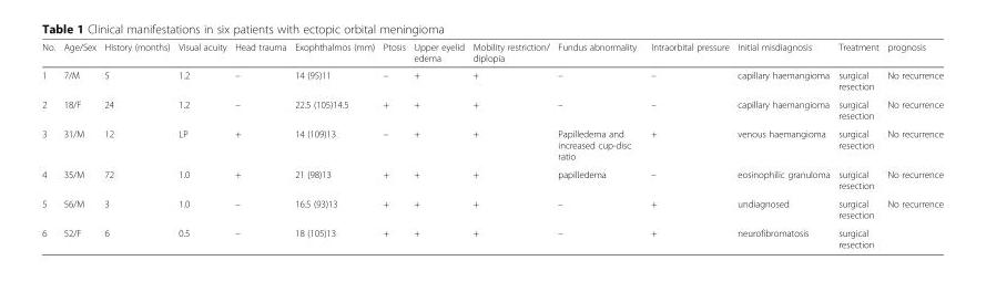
<table><thead><tr><td>No.</td><td>Age/Sex</td><td>History (months)</td><td>Visual acuity</td><td>Head trauma</td><td>Exophthalmos (mm)</td><td>Ptosis</td><td>Upper eyelid edema</td><td>Mobility restriction/ diplopia</td><td>Fundus abnormality</td><td>Intraorbital pressure</td><td>Initial misdiagnosis</td><td>Treatment</td><td>prognosis</td></tr></thead><tbody><tr><td>1</td><td>7/M</td><td>5</td><td>1.2</td><td>–</td><td>14 (95)11</td><td>–</td><td>+</td><td>+</td><td>–</td><td>–</td><td>capillary haemangioma</td><td>surgical resection</td><td>No recurrence</td></tr><tr><td>2</td><td>18/F</td><td>24</td><td>1.2</td><td>–</td><td>22.5 (105)14.5</td><td>+</td><td>+</td><td>+</td><td>–</td><td>–</td><td>capillary haemangioma</td><td>surgical resection</td><td>No recurrence</td></tr><tr><td>3</td><td>31/M</td><td>12</td><td>LP</td><td>+</td><td>14 (109)13</td><td>–</td><td>+</td><td>+</td><td>Papilledema and increased cup-disc ratio</td><td>+</td><td>venous haemangioma</td><td>surgical resection</td><td>No recurrence</td></tr><tr><td>4</td><td>35/M</td><td>72</td><td>1.0</td><td>+</td><td>21 (98)13</td><td>+</td><td>+</td><td>+</td><td>papilledema</td><td>–</td><td>eosinophilic granuloma</td><td>surgical resection</td><td>No recurrence</td></tr><tr><td>5</td><td>56/M</td><td>3</td><td>1.0</td><td>–</td><td>16.5 (93)13</td><td>+</td><td>+</td><td>+</td><td>–</td><td>+</td><td>undiagnosed</td><td>surgical resection</td><td>No recurrence</td></tr><tr><td>6</td><td>52/F</td><td>6</td><td>0.5</td><td>–</td><td>18 (105)13</td><td>+</td><td>+</td><td>+</td><td>–</td><td>+</td><td>neurofibromatosis</td><td>surgical resection</td><td></td></tr></tbody></table>